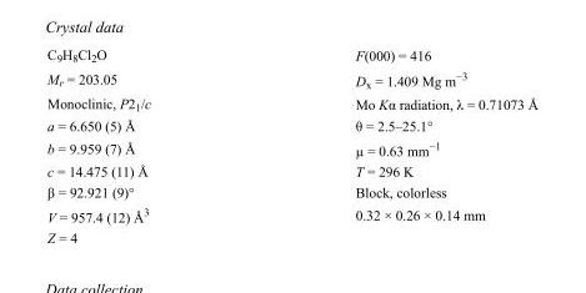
<table><tbody><tr><td>C<sub>9</sub>H<sub>8</sub>Cl<sub>2</sub>O</td><td>F(000) = 416</td></tr><tr><td>M<sub>r</sub> = 203.05</td><td>D<sub>x</sub> = 1.409 Mg m<sup>−3</sup></td></tr><tr><td>Monoclinic, P2<sub>1</sub>/c</td><td>Mo Kα radiation, λ = 0.71073 Å</td></tr><tr><td>a = 6.650 (5) Å</td><td>θ = 2.5–25.1°</td></tr><tr><td>b = 9.959 (7) Å</td><td>µ = 0.63 mm<sup>−1</sup></td></tr><tr><td>c = 14.475 (11) Å</td><td>T = 296 K</td></tr><tr><td>β = 92.921 (9)°</td><td>Block, colorless</td></tr><tr><td>V = 957.4 (12) Å<sup>3</sup></td><td>0.32 × 0.26 × 0.14 mm</td></tr><tr><td>Z = 4</td><td></td></tr></tbody></table>